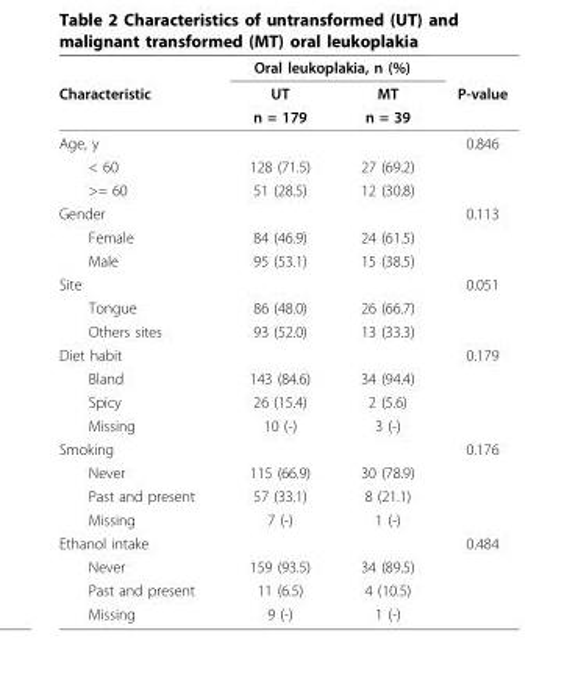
<table><thead><tr><td rowspan="3">Characteristic</td><td colspan="2">Oral leukoplakia, n (%)</td><td rowspan="3">P-value</td></tr><tr><td rowspan="2">UT n = 179</td><td rowspan="2">MT n = 39</td></tr><tr></tr></thead><tbody><tr><td>Age, y</td><td></td><td></td><td>0.846</td></tr><tr><td>&lt; 60</td><td>128 (71.5)</td><td>27 (69.2)</td><td></td></tr><tr><td>&gt;= 60</td><td>51 (28.5)</td><td>12 (30.8)</td><td></td></tr><tr><td>Gender</td><td></td><td></td><td>0.113</td></tr><tr><td>Female</td><td>84 (46.9)</td><td>24 (61.5)</td><td></td></tr><tr><td>Male</td><td>95 (53.1)</td><td>15 (38.5)</td><td></td></tr><tr><td>Site</td><td></td><td></td><td>0.051</td></tr><tr><td>Tongue</td><td>86 (48.0)</td><td>26 (66.7)</td><td></td></tr><tr><td>Others sites</td><td>93 (52.0)</td><td>13 (33.3)</td><td></td></tr><tr><td>Diet habit</td><td></td><td></td><td>0.179</td></tr><tr><td>Bland</td><td>143 (84.6)</td><td>34 (94.4)</td><td></td></tr><tr><td>Spicy</td><td>26 (15.4)</td><td>2 (5.6)</td><td></td></tr><tr><td>Missing</td><td>10 (-)</td><td>3 (-)</td><td></td></tr><tr><td>Smoking</td><td></td><td></td><td>0.176</td></tr><tr><td>Never</td><td>115 (66.9)</td><td>30 (78.9)</td><td></td></tr><tr><td>Past and present</td><td>57 (33.1)</td><td>8 (21.1)</td><td></td></tr><tr><td>Missing</td><td>7 (-)</td><td>1 (-)</td><td></td></tr><tr><td>Ethanol intake</td><td></td><td></td><td>0.484</td></tr><tr><td>Never</td><td>159 (93.5)</td><td>34 (89.5)</td><td></td></tr><tr><td>Past and present</td><td>11 (6.5)</td><td>4 (10.5)</td><td></td></tr><tr><td>Missing</td><td>9 (-)</td><td>1 (-)</td><td></td></tr></tbody></table>